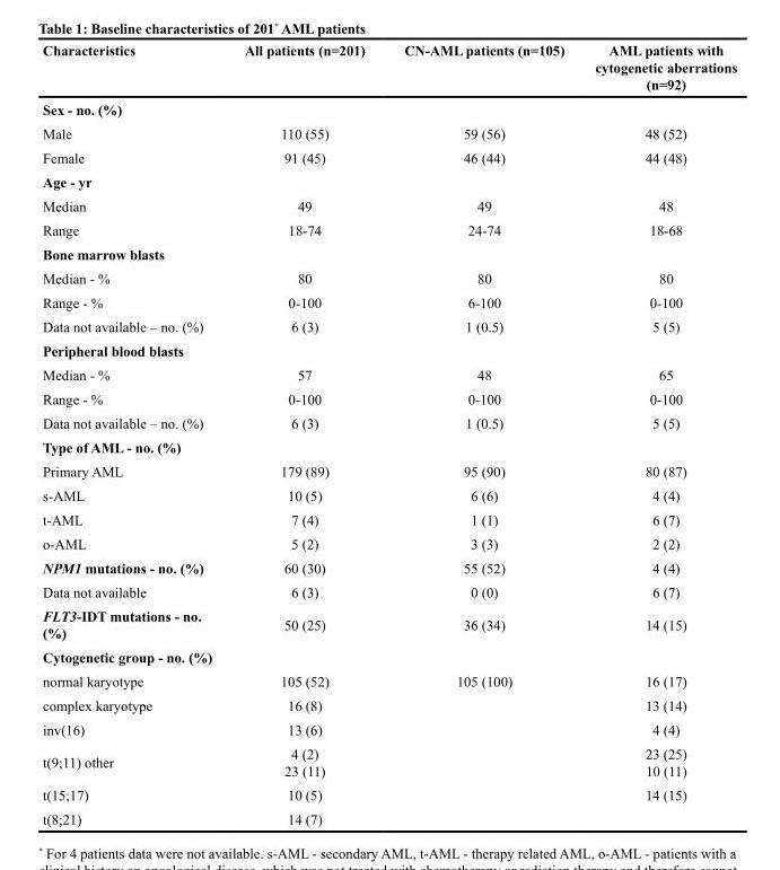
<table><thead><tr><td>Characteristics</td><td>All patients (n=201)</td><td>CN-AML patients (n=105)</td><td>AML patients with cytogenetic aberrations (n=92)</td></tr></thead><tbody><tr><td colspan="4">Sex - no. (%)</td></tr><tr><td>Male</td><td>110 (55)</td><td>59 (56)</td><td>48 (52)</td></tr><tr><td>Female</td><td>91 (45)</td><td>46 (44)</td><td>44 (48)</td></tr><tr><td colspan="4">Age - yr</td></tr><tr><td>Median</td><td>49</td><td>49</td><td>48</td></tr><tr><td>Range</td><td>18-74</td><td>24-74</td><td>18-68</td></tr><tr><td colspan="4">Bone marrow blasts</td></tr><tr><td>Median - %</td><td>80</td><td>80</td><td>80</td></tr><tr><td>Range - %</td><td>0-100</td><td>6-100</td><td>0-100</td></tr><tr><td>Data not available – no. (%)</td><td>6 (3)</td><td>1 (0.5)</td><td>5 (5)</td></tr><tr><td colspan="4">Peripheral blood blasts</td></tr><tr><td>Median - %</td><td>57</td><td>48</td><td>65</td></tr><tr><td>Range - %</td><td>0-100</td><td>0-100</td><td>0-100</td></tr><tr><td>Data not available – no. (%)</td><td>6 (3)</td><td>1 (0.5)</td><td>5 (5)</td></tr><tr><td colspan="4">Type of AML - no. (%)</td></tr><tr><td>Primary AML</td><td>179 (89)</td><td>95 (90)</td><td>80 (87)</td></tr><tr><td>s-AML</td><td>10 (5)</td><td>6 (6)</td><td>4 (4)</td></tr><tr><td>t-AML</td><td>7 (4)</td><td>1 (1)</td><td>6 (7)</td></tr><tr><td>o-AML</td><td>5 (2)</td><td>3 (3)</td><td>2 (2)</td></tr><tr><td>NPM1 mutations - no. (%)</td><td>60 (30)</td><td>55 (52)</td><td>4 (4)</td></tr><tr><td>Data not available</td><td>6 (3)</td><td>0 (0)</td><td>6 (7)</td></tr><tr><td>FLT3-IDT mutations - no. (%)</td><td>50 (25)</td><td>36 (34)</td><td>14 (15)</td></tr><tr><td colspan="4">Cytogenetic group - no. (%)</td></tr><tr><td>normal karyotype</td><td>105 (52)</td><td>105 (100)</td><td>16 (17)</td></tr><tr><td>complex karyotype</td><td>16 (8)</td><td></td><td>13 (14)</td></tr><tr><td>inv(16)</td><td>13 (6)</td><td></td><td>4 (4)</td></tr><tr><td>t(9;11) other</td><td>4 (2) 23 (11)</td><td></td><td>23 (25) 10 (11)</td></tr><tr><td>t(15;17)</td><td>10 (5)</td><td></td><td>14 (15)</td></tr><tr><td>t(8;21)</td><td>14 (7)</td><td></td><td></td></tr></tbody></table>